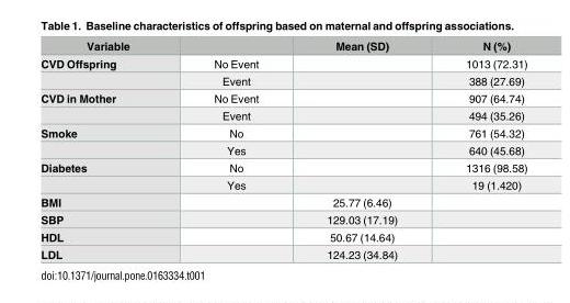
<table><thead><tr><td>Variable</td><td></td><td>Mean (SD)</td><td>N (%)</td></tr></thead><tbody><tr><td rowspan="2">CVD Offspring</td><td>No Event</td><td></td><td>1013 (72.31)</td></tr><tr><td>Event</td><td></td><td>388 (27.69)</td></tr><tr><td rowspan="2">CVD in Mother</td><td>No Event</td><td></td><td>907 (64.74)</td></tr><tr><td>Event</td><td></td><td>494 (35.26)</td></tr><tr><td rowspan="2">Smoke</td><td>No</td><td></td><td>761 (54.32)</td></tr><tr><td>Yes</td><td></td><td>640 (45.68)</td></tr><tr><td rowspan="2">Diabetes</td><td>No</td><td></td><td>1316 (98.58)</td></tr><tr><td>Yes</td><td></td><td>19 (1.420)</td></tr><tr><td>BMI</td><td></td><td>25.77 (6.46)</td><td></td></tr><tr><td>SBP</td><td></td><td>129.03 (17.19)</td><td></td></tr><tr><td>HDL</td><td></td><td>50.67 (14.64)</td><td></td></tr><tr><td>LDL</td><td></td><td>124.23 (34.84)</td><td></td></tr></tbody></table>